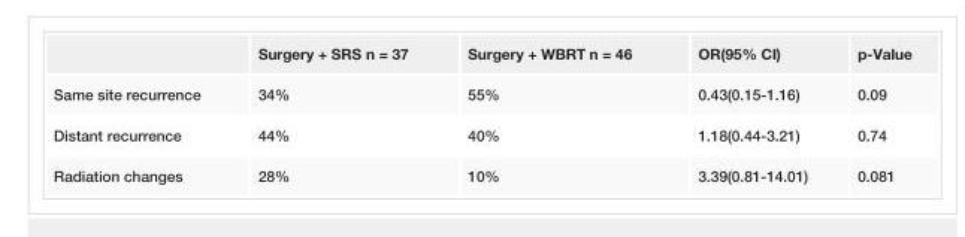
<table><thead><tr><td></td><td>Surgery + SRS n = 37</td><td>Surgery + WBRT n = 46</td><td>OR(95% CI)</td><td>p-Value</td></tr></thead><tbody><tr><td>Same site recurrence</td><td>34%</td><td>55%</td><td>0.43(0.15-1.16)</td><td>0.09</td></tr><tr><td>Distant recurrence</td><td>44%</td><td>40%</td><td>1.18(0.44-3.21)</td><td>0.74</td></tr><tr><td>Radiation changes</td><td>28%</td><td>10%</td><td>3.39(0.81-14.01)</td><td>0.081</td></tr></tbody></table>